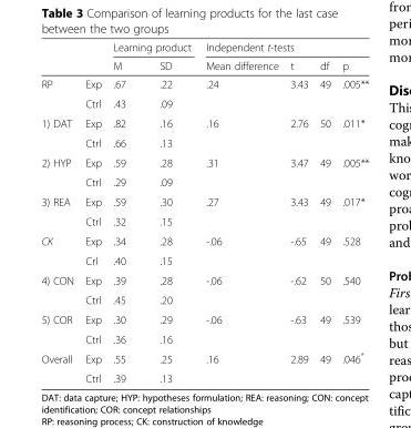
<table><thead><tr><td rowspan="2"></td><td rowspan="2"></td><td colspan="2">Learning product</td><td colspan="4">Independent t-tests</td></tr><tr><td>M</td><td>SD</td><td>Mean difference</td><td>t</td><td>df</td><td>p</td></tr></thead><tbody><tr><td rowspan="2">RP</td><td>Exp</td><td>.67</td><td>.22</td><td rowspan="2">.24</td><td rowspan="2">3.43</td><td rowspan="2">49</td><td rowspan="2">.005**</td></tr><tr><td>Ctrl</td><td>.43</td><td>.09</td></tr><tr><td rowspan="2">1) DAT</td><td>Exp</td><td>.82</td><td>.16</td><td rowspan="2">.16</td><td rowspan="2">2.76</td><td rowspan="2">50</td><td rowspan="2">.011*</td></tr><tr><td>Ctrl</td><td>.66</td><td>.13</td></tr><tr><td rowspan="2">2) HYP</td><td>Exp</td><td>.59</td><td>.28</td><td rowspan="2">.31</td><td rowspan="2">3.47</td><td rowspan="2">49</td><td rowspan="2">.005**</td></tr><tr><td>Ctrl</td><td>.29</td><td>.09</td></tr><tr><td rowspan="2">3) REA</td><td>Exp</td><td>.59</td><td>.30</td><td rowspan="2">.27</td><td rowspan="2">3.43</td><td rowspan="2">49</td><td rowspan="2">.017*</td></tr><tr><td>Ctrl</td><td>.32</td><td>.15</td></tr><tr><td rowspan="2">CK</td><td>Exp</td><td>.34</td><td>.28</td><td rowspan="2">-.06</td><td rowspan="2">-.65</td><td rowspan="2">49</td><td rowspan="2">.528</td></tr><tr><td>Crl</td><td>.40</td><td>.15</td></tr><tr><td rowspan="2">4) CON</td><td>Exp</td><td>.39</td><td>.28</td><td rowspan="2">-.06</td><td rowspan="2">-.62</td><td rowspan="2">50</td><td rowspan="2">.540</td></tr><tr><td>Ctrl</td><td>.45</td><td>.20</td></tr><tr><td rowspan="2">5) COR</td><td>Exp</td><td>.30</td><td>.29</td><td rowspan="2">-.06</td><td rowspan="2">-.63</td><td rowspan="2">49</td><td rowspan="2">.539</td></tr><tr><td>Ctrl</td><td>.36</td><td>.16</td></tr><tr><td rowspan="2">Overall</td><td>Exp</td><td>.55</td><td>.25</td><td rowspan="2">.16</td><td rowspan="2">2.89</td><td rowspan="2">49</td><td rowspan="2">.046*</td></tr><tr><td>Ctrl</td><td>.39</td><td>.13</td></tr></tbody></table>